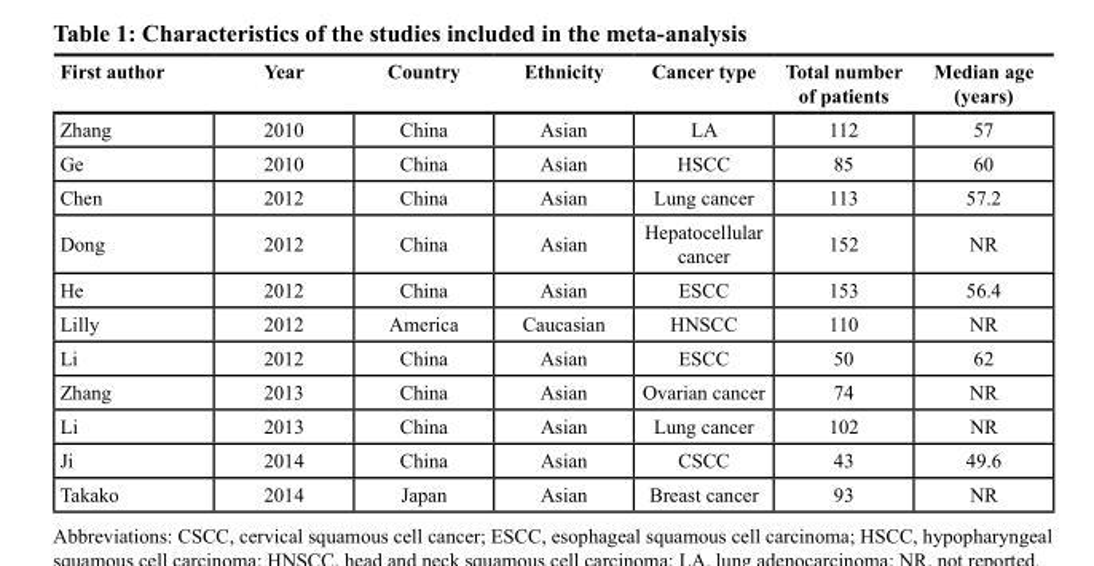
<table><thead><tr><td>First author</td><td>Year</td><td>Country</td><td>Ethnicity</td><td>Cancer type</td><td>Total number of patients</td><td>Median age (years)</td></tr></thead><tbody><tr><td>Zhang</td><td>2010</td><td>China</td><td>Asian</td><td>LA</td><td>112</td><td>57</td></tr><tr><td>Ge</td><td>2010</td><td>China</td><td>Asian</td><td>HSCC</td><td>85</td><td>60</td></tr><tr><td>Chen</td><td>2012</td><td>China</td><td>Asian</td><td>Lung cancer</td><td>113</td><td>57.2</td></tr><tr><td>Dong</td><td>2012</td><td>China</td><td>Asian</td><td>Hepatocellular cancer</td><td>152</td><td>NR</td></tr><tr><td>He</td><td>2012</td><td>China</td><td>Asian</td><td>ESCC</td><td>153</td><td>56.4</td></tr><tr><td>Lilly</td><td>2012</td><td>America</td><td>Caucasian</td><td>HNSCC</td><td>110</td><td>NR</td></tr><tr><td>Li</td><td>2012</td><td>China</td><td>Asian</td><td>ESCC</td><td>50</td><td>62</td></tr><tr><td>Zhang</td><td>2013</td><td>China</td><td>Asian</td><td>Ovarian cancer</td><td>74</td><td>NR</td></tr><tr><td>Li</td><td>2013</td><td>China</td><td>Asian</td><td>Lung cancer</td><td>102</td><td>NR</td></tr><tr><td>Ji</td><td>2014</td><td>China</td><td>Asian</td><td>CSCC</td><td>43</td><td>49.6</td></tr><tr><td>Takako</td><td>2014</td><td>Japan</td><td>Asian</td><td>Breast cancer</td><td>93</td><td>NR</td></tr></tbody></table>